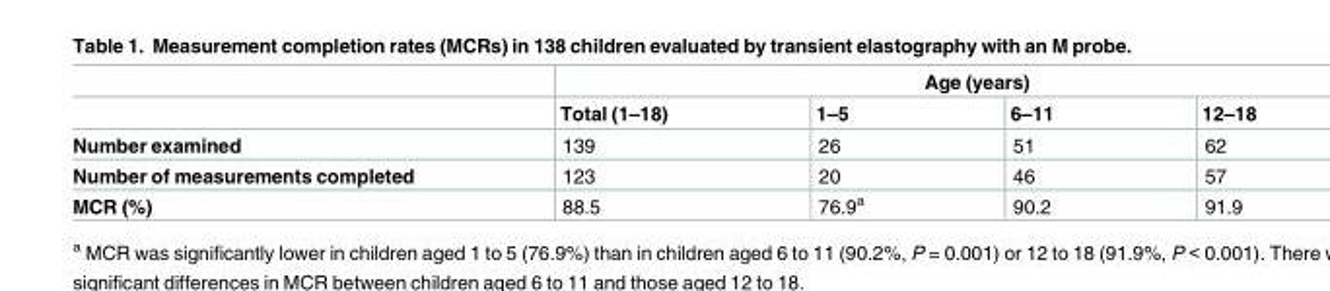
<table><thead><tr><td rowspan="2"></td><td colspan="4">Age (years)</td></tr><tr><td>Total (1–18)</td><td>1–5</td><td>6–11</td><td>12–18</td></tr></thead><tbody><tr><td>Number examined</td><td>139</td><td>26</td><td>51</td><td>62</td></tr><tr><td>Number of measurements completed</td><td>123</td><td>20</td><td>46</td><td>57</td></tr><tr><td>MCR (%)</td><td>88.5</td><td>76.9<sup>a</sup></td><td>90.2</td><td>91.9</td></tr></tbody></table>